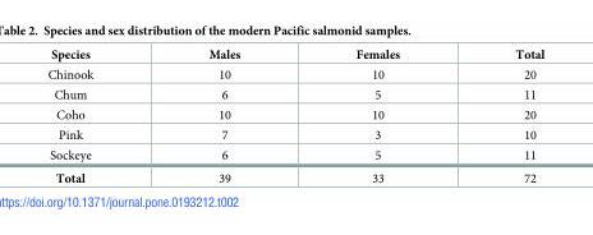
<table><thead><tr><td>Species</td><td>Males</td><td>Females</td><td>Total</td></tr></thead><tbody><tr><td>Chinook</td><td>10</td><td>10</td><td>20</td></tr><tr><td>Chum</td><td>6</td><td>5</td><td>11</td></tr><tr><td>Coho</td><td>10</td><td>10</td><td>20</td></tr><tr><td>Pink</td><td>7</td><td>3</td><td>10</td></tr><tr><td>Sockeye</td><td>6</td><td>5</td><td>11</td></tr><tr><td>Total</td><td>39</td><td>33</td><td>72</td></tr></tbody></table>